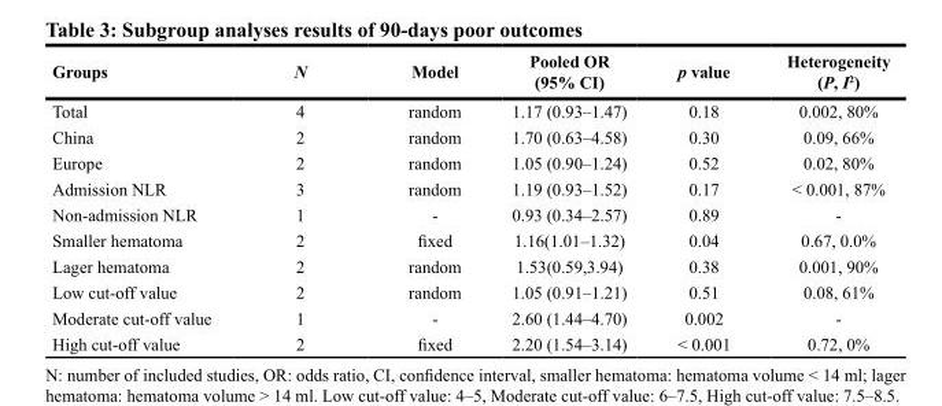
<table><thead><tr><td>Groups</td><td>N</td><td>Model</td><td>Pooled OR (95% CI)</td><td>p value</td><td>Heterogeneity (P, I<sup>2</sup>)</td></tr></thead><tbody><tr><td>Total</td><td>4</td><td>random</td><td>1.17 (0.93–1.47)</td><td>0.18</td><td>0.002, 80%</td></tr><tr><td>China</td><td>2</td><td>random</td><td>1.70 (0.63–4.58)</td><td>0.30</td><td>0.09, 66%</td></tr><tr><td>Europe</td><td>2</td><td>random</td><td>1.05 (0.90–1.24)</td><td>0.52</td><td>0.02, 80%</td></tr><tr><td>Admission NLR</td><td>3</td><td>random</td><td>1.19 (0.93–1.52)</td><td>0.17</td><td>&lt; 0.001, 87%</td></tr><tr><td>Non-admission NLR</td><td>1</td><td>-</td><td>0.93 (0.34–2.57)</td><td>0.89</td><td>-</td></tr><tr><td>Smaller hematoma</td><td>2</td><td>fixed</td><td>1.16(1.01–1.32)</td><td>0.04</td><td>0.67, 0.0%</td></tr><tr><td>Lager hematoma</td><td>2</td><td>random</td><td>1.53(0.59,3.94)</td><td>0.38</td><td>0.001, 90%</td></tr><tr><td>Low cut-off value</td><td>2</td><td>random</td><td>1.05 (0.91–1.21)</td><td>0.51</td><td>0.08, 61%</td></tr><tr><td>Moderate cut-off value</td><td>1</td><td>-</td><td>2.60 (1.44–4.70)</td><td>0.002</td><td>-</td></tr><tr><td>High cut-off value</td><td>2</td><td>fixed</td><td>2.20 (1.54–3.14)</td><td>&lt; 0.001</td><td>0.72, 0%</td></tr></tbody></table>